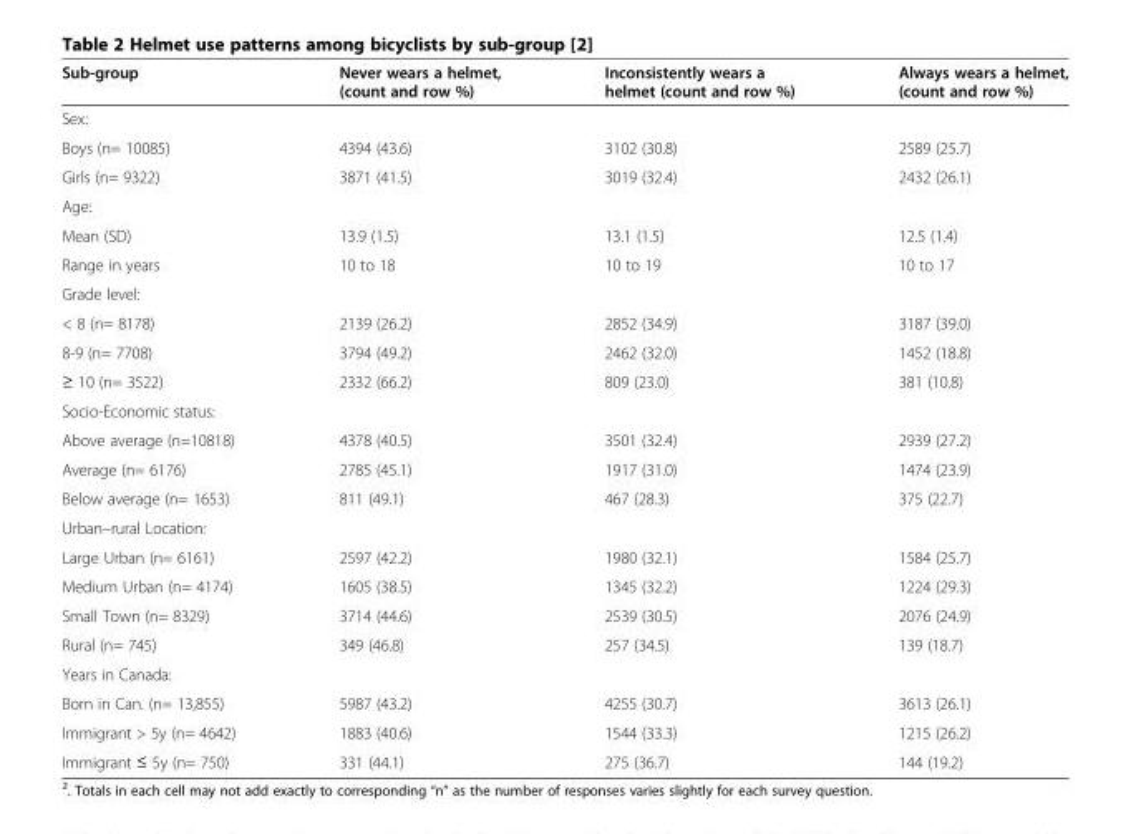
<table><thead><tr><td>Sub-group</td><td>Never wears a helmet, (count and row %)</td><td>Inconsistently wears a helmet (count and row %)</td><td>Always wears a helmet, (count and row %)</td></tr></thead><tbody><tr><td colspan="4">Sex:</td></tr><tr><td>Boys (n= 10085)</td><td>4394 (43.6)</td><td>3102 (30.8)</td><td>2589 (25.7)</td></tr><tr><td>Girls (n= 9322)</td><td>3871 (41.5)</td><td>3019 (32.4)</td><td>2432 (26.1)</td></tr><tr><td colspan="4">Age:</td></tr><tr><td>Mean (SD)</td><td>13.9 (1.5)</td><td>13.1 (1.5)</td><td>12.5 (1.4)</td></tr><tr><td>Range in years</td><td>10 to 18</td><td>10 to 19</td><td>10 to 17</td></tr><tr><td colspan="4">Grade level:</td></tr><tr><td>&lt; 8 (n= 8178)</td><td>2139 (26.2)</td><td>2852 (34.9)</td><td>3187 (39.0)</td></tr><tr><td>8-9 (n= 7708)</td><td>3794 (49.2)</td><td>2462 (32.0)</td><td>1452 (18.8)</td></tr><tr><td>≥ 10 (n= 3522)</td><td>2332 (66.2)</td><td>809 (23.0)</td><td>381 (10.8)</td></tr><tr><td colspan="4">Socio-Economic status:</td></tr><tr><td>Above average (n=10818)</td><td>4378 (40.5)</td><td>3501 (32.4)</td><td>2939 (27.2)</td></tr><tr><td>Average (n= 6176)</td><td>2785 (45.1)</td><td>1917 (31.0)</td><td>1474 (23.9)</td></tr><tr><td>Below average (n= 1653)</td><td>811 (49.1)</td><td>467 (28.3)</td><td>375 (22.7)</td></tr><tr><td colspan="4">Urban–rural Location:</td></tr><tr><td>Large Urban (n= 6161)</td><td>2597 (42.2)</td><td>1980 (32.1)</td><td>1584 (25.7)</td></tr><tr><td>Medium Urban (n= 4174)</td><td>1605 (38.5)</td><td>1345 (32.2)</td><td>1224 (29.3)</td></tr><tr><td>Small Town (n= 8329)</td><td>3714 (44.6)</td><td>2539 (30.5)</td><td>2076 (24.9)</td></tr><tr><td>Rural (n= 745)</td><td>349 (46.8)</td><td>257 (34.5)</td><td>139 (18.7)</td></tr><tr><td colspan="4">Years in Canada:</td></tr><tr><td>Born in Can. (n= 13,855)</td><td>5987 (43.2)</td><td>4255 (30.7)</td><td>3613 (26.1)</td></tr><tr><td>Immigrant &gt; 5y (n= 4642)</td><td>1883 (40.6)</td><td>1544 (33.3)</td><td>1215 (26.2)</td></tr><tr><td>Immigrant ≤ 5y (n= 750)</td><td>331 (44.1)</td><td>275 (36.7)</td><td>144 (19.2)</td></tr></tbody></table>